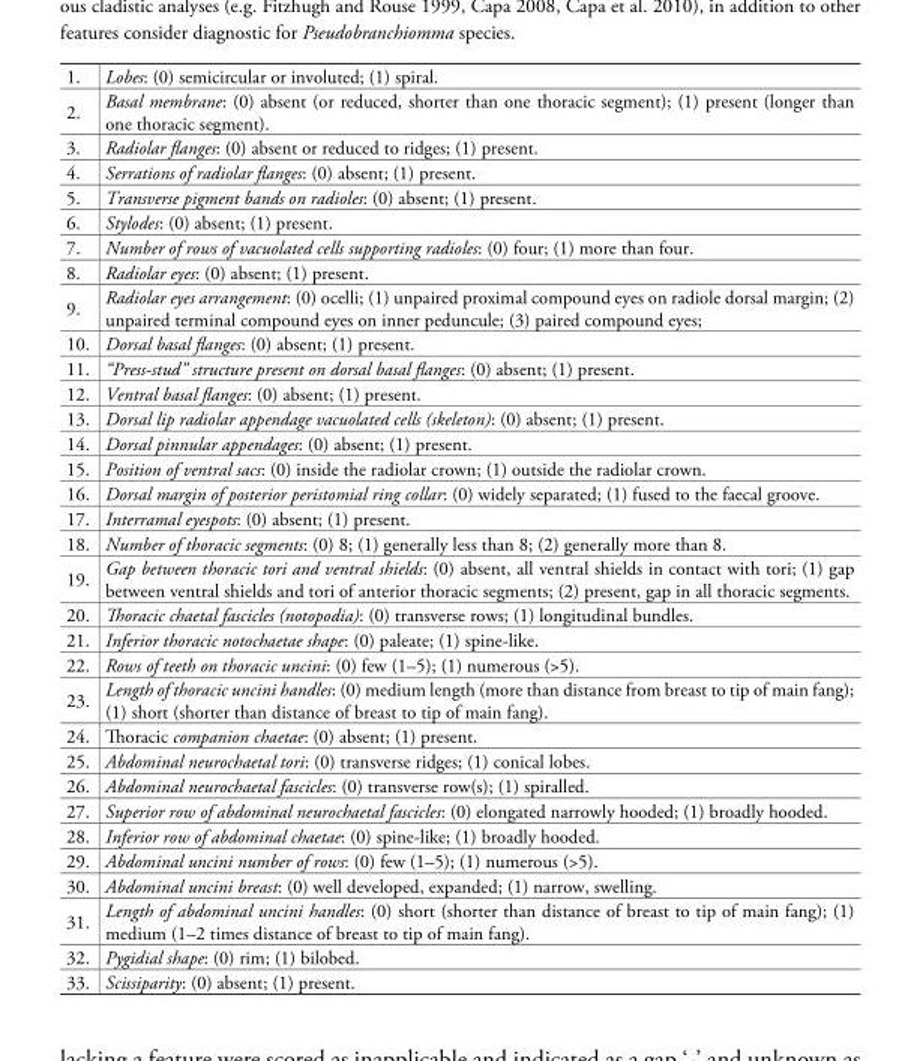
<table><tbody><tr><td>1.</td><td>Lobes: (0) semicircular or involuted; (1) spiral.</td></tr><tr><td>2.</td><td>Basal membrane: (0) absent (or reduced, shorter than one thoracic segment); (1) present (longer than one thoracic segment).</td></tr><tr><td>3.</td><td>Radiolar flanges: (0) absent or reduced to ridges; (1) present.</td></tr><tr><td>4.</td><td>Serrations of radiolar flanges: (0) absent; (1) present.</td></tr><tr><td>5.</td><td>Transverse pigment bands on radioles: (0) absent; (1) present.</td></tr><tr><td>6.</td><td>Stylodes: (0) absent; (1) present.</td></tr><tr><td>7.</td><td>Number of rows of vacuolated cells supporting radioles: (0) four; (1) more than four.</td></tr><tr><td>8.</td><td>Radiolar eyes: (0) absent; (1) present.</td></tr><tr><td>9.</td><td>Radiolar eyes arrangement: (0) ocelli; (1) unpaired proximal compound eyes on radiole dorsal margin; (2) unpaired terminal compound eyes on inner peduncule; (3) paired compound eyes;</td></tr><tr><td>10.</td><td>Dorsal basal flanges: (0) absent; (1) present.</td></tr><tr><td>11.</td><td>“Press-stud” structure present on dorsal basal flanges: (0) absent; (1) present.</td></tr><tr><td>12.</td><td>Ventral basal flanges: (0) absent; (1) present.</td></tr><tr><td>13.</td><td>Dorsal lip radiolar appendage vacuolated cells (skeleton): (0) absent; (1) present.</td></tr><tr><td>14.</td><td>Dorsal pinnular appendages: (0) absent; (1) present.</td></tr><tr><td>15.</td><td>Position of ventral sacs: (0) inside the radiolar crown; (1) outside the radiolar crown.</td></tr><tr><td>16.</td><td>Dorsal margin of posterior peristomial ring collar: (0) widely separated; (1) fused to the faecal groove.</td></tr><tr><td>17.</td><td>Interramal eyespots: (0) absent; (1) present.</td></tr><tr><td>18.</td><td>Number of thoracic segments: (0) 8; (1) generally less than 8; (2) generally more than 8.</td></tr><tr><td>19.</td><td>Gap between thoracic tori and ventral shields: (0) absent, all ventral shields in contact with tori; (1) gap between ventral shields and tori of anterior thoracic segments; (2) present, gap in all thoracic segments.</td></tr><tr><td>20.</td><td>Thoracic chaetal fascicles (notopodia): (0) transverse rows; (1) longitudinal bundles.</td></tr><tr><td>21.</td><td>Inferior thoracic notochaetae shape: (0) paleate; (1) spine-like.</td></tr><tr><td>22.</td><td>Rows of teeth on thoracic uncini: (0) few (1–5); (1) numerous (&gt;5).</td></tr><tr><td>23.</td><td>Length of thoracic uncini handles: (0) medium length (more than distance from breast to tip of main fang); (1) short (shorter than distance of breast to tip of main fang).</td></tr><tr><td>24.</td><td>Thoracic companion chaetae: (0) absent; (1) present.</td></tr><tr><td>25.</td><td>Abdominal neurochaetal tori: (0) transverse ridges; (1) conical lobes.</td></tr><tr><td>26.</td><td>Abdominal neurochaetal fascicles: (0) transverse row(s); (1) spiralled.</td></tr><tr><td>27.</td><td>Superior row of abdominal neurochaetal fascicles: (0) elongated narrowly hooded; (1) broadly hooded.</td></tr><tr><td>28.</td><td>Inferior row of abdominal chaetae: (0) spine-like; (1) broadly hooded.</td></tr><tr><td>29.</td><td>Abdominal uncini number of rows: (0) few (1–5); (1) numerous (&gt;5).</td></tr><tr><td>30.</td><td>Abdominal uncini breast: (0) well developed, expanded; (1) narrow, swelling.</td></tr><tr><td>31.</td><td>Length of abdominal uncini handles: (0) short (shorter than distance of breast to tip of main fang); (1) medium (1–2 times distance of breast to tip of main fang).</td></tr><tr><td>32.</td><td>Pygidial shape: (0) rim; (1) bilobed.</td></tr><tr><td>33.</td><td>Scissiparity: (0) absent; (1) present.</td></tr></tbody></table>